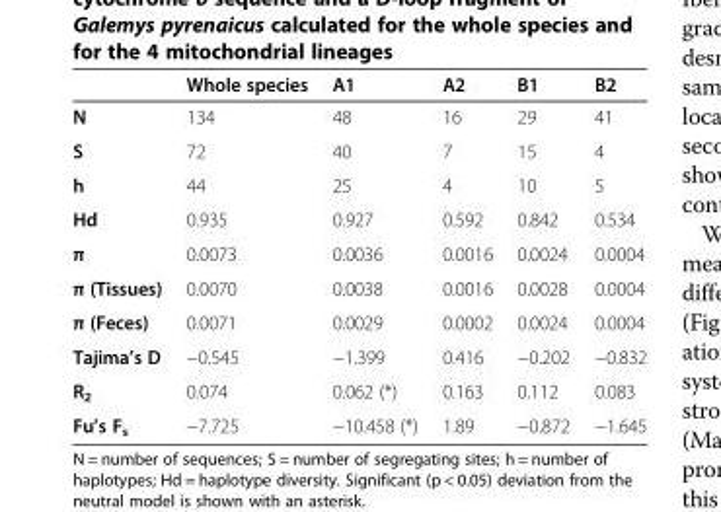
<table><thead><tr><td></td><td>Whole species</td><td>A1</td><td>A2</td><td>B1</td><td>B2</td></tr></thead><tbody><tr><td>N</td><td>134</td><td>48</td><td>16</td><td>29</td><td>41</td></tr><tr><td>S</td><td>72</td><td>40</td><td>7</td><td>15</td><td>4</td></tr><tr><td>h</td><td>44</td><td>25</td><td>4</td><td>10</td><td>5</td></tr><tr><td>Hd</td><td>0.935</td><td>0.927</td><td>0.592</td><td>0.842</td><td>0.534</td></tr><tr><td>π</td><td>0.0073</td><td>0.0036</td><td>0.0016</td><td>0.0024</td><td>0.0004</td></tr><tr><td>π (Tissues)</td><td>0.0070</td><td>0.0038</td><td>0.0016</td><td>0.0028</td><td>0.0004</td></tr><tr><td>π (Feces)</td><td>0.0071</td><td>0.0029</td><td>0.0002</td><td>0.0024</td><td>0.0004</td></tr><tr><td>Tajima’s D</td><td>−0.545</td><td>−1.399</td><td>0.416</td><td>−0.202</td><td>−0.832</td></tr><tr><td>R<sub>2</sub></td><td>0.074</td><td>0.062 (*)</td><td>0.163</td><td>0.112</td><td>0.083</td></tr><tr><td>Fu’s F<sub>s</sub></td><td>−7.725</td><td>−10.458 (*)</td><td>1.89</td><td>−0.872</td><td>−1.645</td></tr></tbody></table>